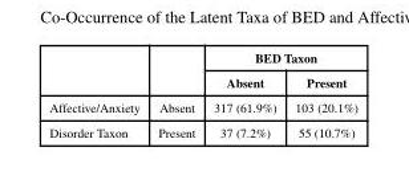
<table><thead><tr><td rowspan="2"></td><td rowspan="2"></td><td colspan="2">BED Taxon</td></tr><tr><td>Absent</td><td>Present</td></tr></thead><tbody><tr><td>Affective/Anxiety</td><td>Absent</td><td>317 (61.9%)</td><td>103 (20.1%)</td></tr><tr><td>Disorder Taxon</td><td>Present</td><td>37 (7.2%)</td><td>55 (10.7%)</td></tr></tbody></table>